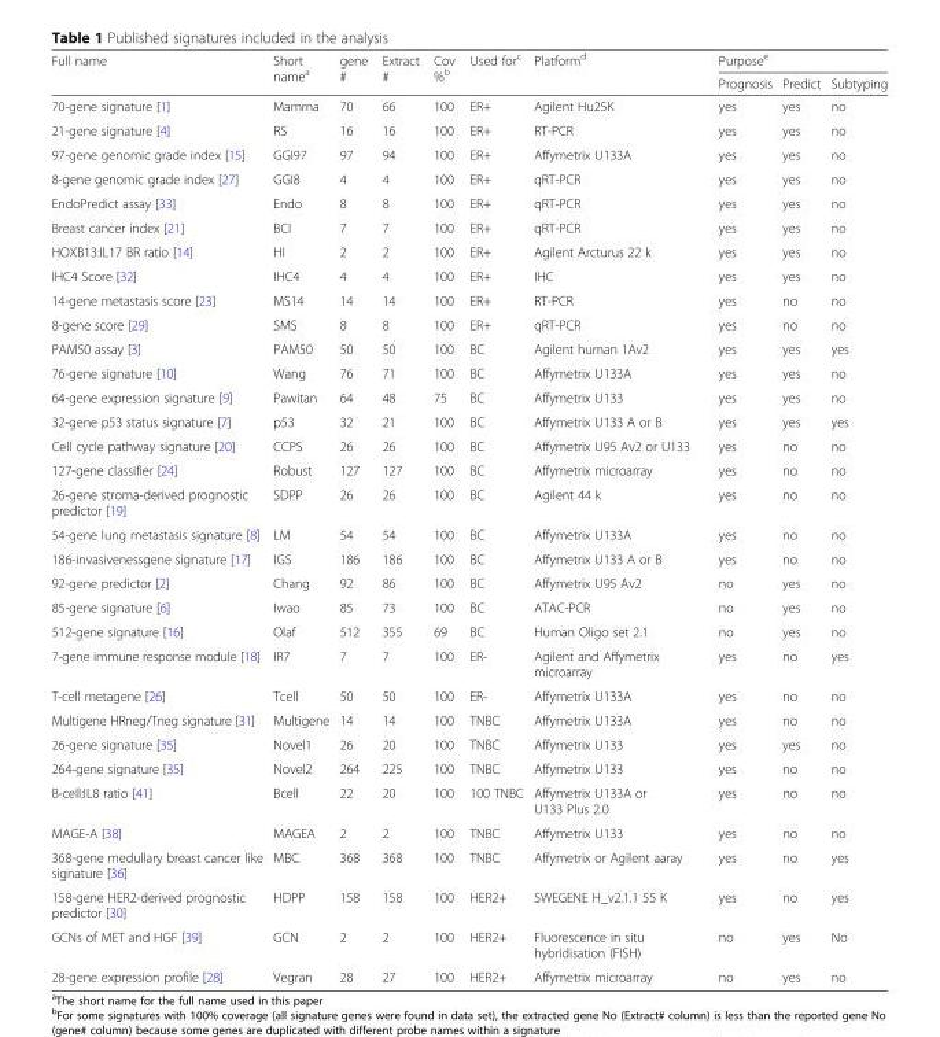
<table><thead><tr><td rowspan="2">Full name</td><td rowspan="2">Short name<sup>a</sup></td><td rowspan="2">gene #</td><td rowspan="2">Extract #</td><td rowspan="2">Cov %<sup>b</sup></td><td rowspan="2">Used for<sup>c</sup></td><td rowspan="2">Platform<sup>d</sup></td><td colspan="3">Purpose<sup>e</sup></td></tr><tr><td>Prognosis</td><td>Predict</td><td>Subtyping</td></tr></thead><tbody><tr><td>70-gene signature [1]</td><td>Mamma</td><td>70</td><td>66</td><td>100</td><td>ER+</td><td>Agilent Hu25K</td><td>yes</td><td>yes</td><td>no</td></tr><tr><td>21-gene signature [4]</td><td>RS</td><td>16</td><td>16</td><td>100</td><td>ER+</td><td>RT-PCR</td><td>yes</td><td>yes</td><td>no</td></tr><tr><td>97-gene genomic grade index [15]</td><td>GGI97</td><td>97</td><td>94</td><td>100</td><td>ER+</td><td>Affymetrix U133A</td><td>yes</td><td>yes</td><td>no</td></tr><tr><td>8-gene genomic grade index [27]</td><td>GGI8</td><td>4</td><td>4</td><td>100</td><td>ER+</td><td>qRT-PCR</td><td>yes</td><td>yes</td><td>no</td></tr><tr><td>EndoPredict assay [33]</td><td>Endo</td><td>8</td><td>8</td><td>100</td><td>ER+</td><td>qRT-PCR</td><td>yes</td><td>yes</td><td>no</td></tr><tr><td>Breast cancer index [21]</td><td>BCI</td><td>7</td><td>7</td><td>100</td><td>ER+</td><td>qRT-PCR</td><td>yes</td><td>yes</td><td>no</td></tr><tr><td>HOXB13:IL17 BR ratio [14]</td><td>HI</td><td>2</td><td>2</td><td>100</td><td>ER+</td><td>Agilent Arcturus 22 k</td><td>yes</td><td>yes</td><td>no</td></tr><tr><td>IHC4 Score [32]</td><td>IHC4</td><td>4</td><td>4</td><td>100</td><td>ER+</td><td>IHC</td><td>yes</td><td>yes</td><td>no</td></tr><tr><td>14-gene metastasis score [23]</td><td>MS14</td><td>14</td><td>14</td><td>100</td><td>ER+</td><td>RT-PCR</td><td>yes</td><td>no</td><td>no</td></tr><tr><td>8-gene score [29]</td><td>SMS</td><td>8</td><td>8</td><td>100</td><td>ER+</td><td>qRT-PCR</td><td>yes</td><td>no</td><td>no</td></tr><tr><td>PAM50 assay [3]</td><td>PAM50</td><td>50</td><td>50</td><td>100</td><td>BC</td><td>Agilent human 1Av2</td><td>yes</td><td>yes</td><td>yes</td></tr><tr><td>76-gene signature [10]</td><td>Wang</td><td>76</td><td>71</td><td>100</td><td>BC</td><td>Affymetrix U133A</td><td>yes</td><td>yes</td><td>no</td></tr><tr><td>64-gene expression signature [9]</td><td>Pawitan</td><td>64</td><td>48</td><td>75</td><td>BC</td><td>Affymetrix U133</td><td>yes</td><td>yes</td><td>no</td></tr><tr><td>32-gene p53 status signature [7]</td><td>p53</td><td>32</td><td>21</td><td>100</td><td>BC</td><td>Affymetrix U133 A or B</td><td>yes</td><td>yes</td><td>yes</td></tr><tr><td>Cell cycle pathway signature [20]</td><td>CCPS</td><td>26</td><td>26</td><td>100</td><td>BC</td><td>Affymetrix U95 Av2 or U133</td><td>yes</td><td>no</td><td>no</td></tr><tr><td>127-gene classifier [24]</td><td>Robust</td><td>127</td><td>127</td><td>100</td><td>BC</td><td>Affymetrix microarray</td><td>yes</td><td>no</td><td>no</td></tr><tr><td>26-gene stroma-derived prognostic predictor [19]</td><td>SDPP</td><td>26</td><td>26</td><td>100</td><td>BC</td><td>Agilent 44 k</td><td>yes</td><td>no</td><td>no</td></tr><tr><td>54-gene lung metastasis signature [8]</td><td>LM</td><td>54</td><td>54</td><td>100</td><td>BC</td><td>Affymetrix U133A</td><td>yes</td><td>no</td><td>no</td></tr><tr><td>186-invasivenessgene signature [17]</td><td>IGS</td><td>186</td><td>186</td><td>100</td><td>BC</td><td>Affymetrix U133 A or B</td><td>yes</td><td>no</td><td>no</td></tr><tr><td>92-gene predictor [2]</td><td>Chang</td><td>92</td><td>86</td><td>100</td><td>BC</td><td>Affymetrix U95 Av2</td><td>no</td><td>yes</td><td>no</td></tr><tr><td>85-gene signature [6]</td><td>Iwao</td><td>85</td><td>73</td><td>100</td><td>BC</td><td>ATAC-PCR</td><td>no</td><td>yes</td><td>no</td></tr><tr><td>512-gene signature [16]</td><td>Olaf</td><td>512</td><td>355</td><td>69</td><td>BC</td><td>Human Oligo set 2.1</td><td>no</td><td>yes</td><td>no</td></tr><tr><td>7-gene immune response module [18]</td><td>IR7</td><td>7</td><td>7</td><td>100</td><td>ER-</td><td>Agilent and Affymetrix microarray</td><td>yes</td><td>no</td><td>yes</td></tr><tr><td>T-cell metagene [26]</td><td>Tcell</td><td>50</td><td>50</td><td>100</td><td>ER-</td><td>Affymetrix U133A</td><td>yes</td><td>no</td><td>no</td></tr><tr><td>Multigene HRneg/Tneg signature [31]</td><td>Multigene</td><td>14</td><td>14</td><td>100</td><td>TNBC</td><td>Affymetrix U133A</td><td>yes</td><td>no</td><td>no</td></tr><tr><td>26-gene signature [35]</td><td>Novel1</td><td>26</td><td>20</td><td>100</td><td>TNBC</td><td>Affymetrix U133</td><td>yes</td><td>yes</td><td>no</td></tr><tr><td>264-gene signature [35]</td><td>Novel2</td><td>264</td><td>225</td><td>100</td><td>TNBC</td><td>Affymetrix U133</td><td>yes</td><td>no</td><td>no</td></tr><tr><td>B-cell:IL8 ratio [41]</td><td>Bcell</td><td>22</td><td>20</td><td>100</td><td>100 TNBC</td><td>Affymetrix U133A or U133 Plus 2.0</td><td>yes</td><td>no</td><td>no</td></tr><tr><td>MAGE-A [38]</td><td>MAGEA</td><td>2</td><td>2</td><td>100</td><td>TNBC</td><td>Affymetrix U133</td><td>yes</td><td>no</td><td>no</td></tr><tr><td>368-gene medullary breast cancer like signature [36]</td><td>MBC</td><td>368</td><td>368</td><td>100</td><td>TNBC</td><td>Affymetrix or Agilent aaray</td><td>yes</td><td>no</td><td>yes</td></tr><tr><td>158-gene HER2-derived prognostic predictor [30]</td><td>HDPP</td><td>158</td><td>158</td><td>100</td><td>HER2+</td><td>SWEGENE H_v2.1.1 55 K</td><td>yes</td><td>no</td><td>yes</td></tr><tr><td>GCNs of MET and HGF [39]</td><td>GCN</td><td>2</td><td>2</td><td>100</td><td>HER2+</td><td>Fluorescence in situ hybridisation (FISH)</td><td>no</td><td>yes</td><td>No</td></tr><tr><td>28-gene expression profile [28]</td><td>Vegran</td><td>28</td><td>27</td><td>100</td><td>HER2+</td><td>Affymetrix microarray</td><td>no</td><td>yes</td><td>no</td></tr></tbody></table>